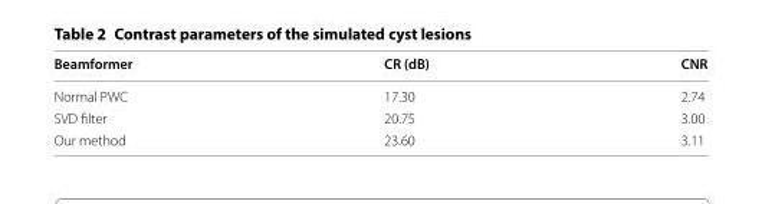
<table><thead><tr><td>Beamformer</td><td>CR (dB)</td><td>CNR</td></tr></thead><tbody><tr><td>Normal PWC</td><td>17.30</td><td>2.74</td></tr><tr><td>SVD filter</td><td>20.75</td><td>3.00</td></tr><tr><td>Our method</td><td>23.60</td><td>3.11</td></tr></tbody></table>